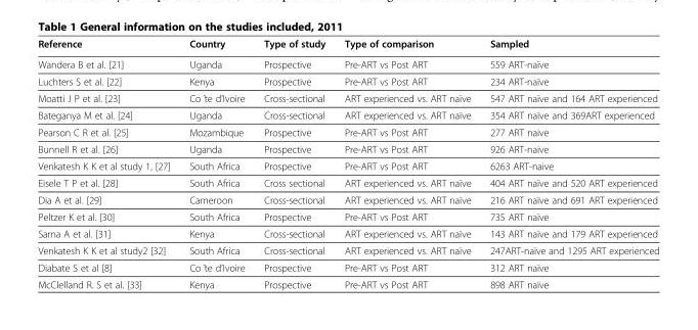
<table><thead><tr><td>Reference</td><td>Country</td><td>Type of study</td><td>Type of comparison</td><td>Sampled</td></tr></thead><tbody><tr><td>Wandera B et al. [21]</td><td>Uganda</td><td>Prospective</td><td>Pre-ART vs Post ART</td><td>559 ART-naïve</td></tr><tr><td>Luchters S et al. [22]</td><td>Kenya</td><td>Prospective</td><td>Pre-ART vs Post ART</td><td>234 ART-naïve</td></tr><tr><td>Moatti J P et al. [23]</td><td>Co^te d’Ivoire</td><td>Cross-sectional</td><td>ART experienced vs. ART naïve</td><td>547 ART naïve and 164 ART experienced</td></tr><tr><td>Bateganya M et al. [24]</td><td>Uganda</td><td>Cross-sectional</td><td>ART experienced vs. ART naïve</td><td>354 ART naïve and 369ART experienced</td></tr><tr><td>Pearson C R et al. [25]</td><td>Mozambique</td><td>Prospective</td><td>Pre-ART vs Post ART</td><td>277 ART naive</td></tr><tr><td>Bunnell R et al. [26]</td><td>Uganda</td><td>Prospective</td><td>Pre-ART vs Post ART</td><td>926 ART-naive</td></tr><tr><td>Venkatesh K K et al study 1, [27]</td><td>South Africa</td><td>Prospective</td><td>Pre-ART vs Post ART</td><td>6263 ART-naive</td></tr><tr><td>Eisele T P et al. [28]</td><td>South Africa</td><td>Cross sectional</td><td>ART experienced vs. ART naïve</td><td>404 ART naïve and 520 ART experienced</td></tr><tr><td>Dia A et al. [29]</td><td>Cameroon</td><td>Cross-sectional</td><td>ART experienced vs. ART naïve</td><td>216 ART naïve and 691 ART experienced</td></tr><tr><td>Peltzer K et al. [30]</td><td>South Africa</td><td>Prospective</td><td>Pre-ART vs Post ART</td><td>735 ART naïve</td></tr><tr><td>Sarna A et al. [31]</td><td>Kenya</td><td>Cross-sectional</td><td>ART experienced vs. ART naïve</td><td>143 ART naïve and 179 ART experienced</td></tr><tr><td>Venkatesh K K et al study2 [32]</td><td>South Africa</td><td>Cross-sectional</td><td>ART experienced vs. ART naïve</td><td>247ART-naïve and 1295 ART experienced</td></tr><tr><td>Diabate S et al [8]</td><td>Co^te d’Ivoire</td><td>Prospective</td><td>Pre-ART vs Post ART</td><td>312 ART naïve</td></tr><tr><td>McClelland R. S et al. [33]</td><td>Kenya</td><td>Prospective</td><td>Pre-ART vs Post ART</td><td>898 ART naïve</td></tr></tbody></table>